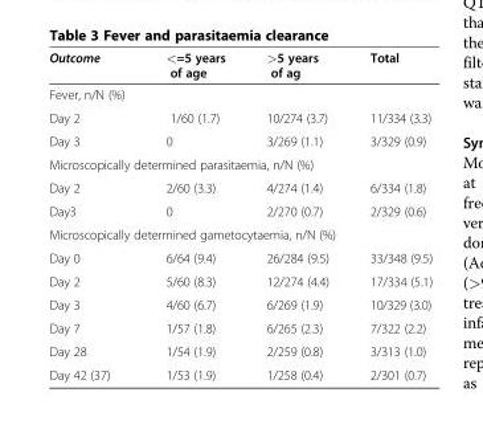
<table><thead><tr><td>Outcome</td><td>&lt;=5 years of age</td><td>&gt;5 years of ag</td><td>Total</td></tr></thead><tbody><tr><td colspan="4">Fever, n/N (%)</td></tr><tr><td>Day 2</td><td>1/60 (1.7)</td><td>10/274 (3.7)</td><td>11/334 (3.3)</td></tr><tr><td>Day 3</td><td>0</td><td>3/269 (1.1)</td><td>3/329 (0.9)</td></tr><tr><td colspan="4">Microscopically determined parasitaemia, n/N (%)</td></tr><tr><td>Day 2</td><td>2/60 (3.3)</td><td>4/274 (1.4)</td><td>6/334 (1.8)</td></tr><tr><td>Day3</td><td>0</td><td>2/270 (0.7)</td><td>2/329 (0.6)</td></tr><tr><td colspan="4">Microscopically determined gametocytaemia, n/N (%)</td></tr><tr><td>Day 0</td><td>6/64 (9.4)</td><td>26/284 (9.5)</td><td>33/348 (9.5)</td></tr><tr><td>Day 2</td><td>5/60 (8.3)</td><td>12/274 (4.4)</td><td>17/334 (5.1)</td></tr><tr><td>Day 3</td><td>4/60 (6.7)</td><td>6/269 (1.9)</td><td>10/329 (3.0)</td></tr><tr><td>Day 7</td><td>1/57 (1.8)</td><td>6/265 (2.3)</td><td>7/322 (2.2)</td></tr><tr><td>Day 28</td><td>1/54 (1.9)</td><td>2/259 (0.8)</td><td>3/313 (1.0)</td></tr><tr><td>Day 42 (37)</td><td>1/53 (1.9)</td><td>1/258 (0.4)</td><td>2/301 (0.7)</td></tr></tbody></table>